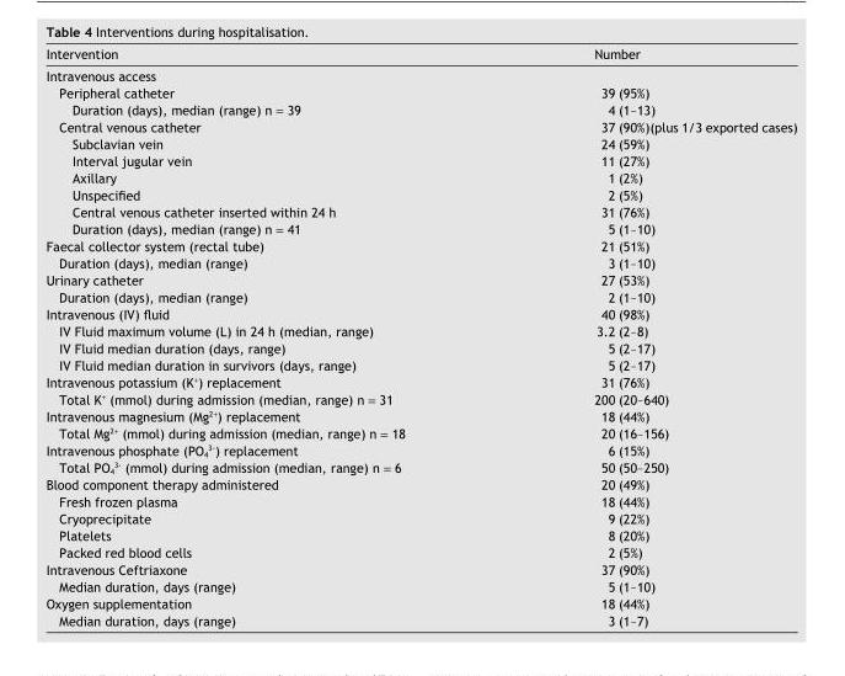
<table><thead><tr><td>Intervention</td><td>Number</td></tr></thead><tbody><tr><td colspan="2">Intravenous access</td></tr><tr><td>Peripheral catheter</td><td>39 (95%)</td></tr><tr><td>Duration (days), median (range) n = 39</td><td>4 (1–13)</td></tr><tr><td>Central venous catheter</td><td>37 (90%)(plus 1/3 exported cases)</td></tr><tr><td>Subclavian vein</td><td>24 (59%)</td></tr><tr><td>Interval jugular vein</td><td>11 (27%)</td></tr><tr><td>Axillary</td><td>1 (2%)</td></tr><tr><td>Unspecified</td><td>2 (5%)</td></tr><tr><td>Central venous catheter inserted within 24 h</td><td>31 (76%)</td></tr><tr><td>Duration (days), median (range) n = 41</td><td>5 (1–10)</td></tr><tr><td>Faecal collector system (rectal tube)</td><td>21 (51%)</td></tr><tr><td>Duration (days), median (range)</td><td>3 (1–10)</td></tr><tr><td>Urinary catheter</td><td>27 (53%)</td></tr><tr><td>Duration (days), median (range)</td><td>2 (1–10)</td></tr><tr><td>Intravenous (IV) fluid</td><td>40 (98%)</td></tr><tr><td>IV Fluid maximum volume (L) in 24 h (median, range)</td><td>3.2 (2–8)</td></tr><tr><td>IV Fluid median duration (days, range)</td><td>5 (2–17)</td></tr><tr><td>IV Fluid median duration in survivors (days, range)</td><td>5 (2–17)</td></tr><tr><td>Intravenous potassium (K<sup>+</sup>) replacement</td><td>31 (76%)</td></tr><tr><td>Total K<sup>+</sup> (mmol) during admission (median, range) n = 31</td><td>200 (20–640)</td></tr><tr><td>Intravenous magnesium (Mg<sup>2+</sup>) replacement</td><td>18 (44%)</td></tr><tr><td>Total Mg<sup>2+</sup> (mmol) during admission (median, range) n = 18</td><td>20 (16–156)</td></tr><tr><td>Intravenous phosphate (PO<sub>4</sub> <sup>3-</sup>) replacement</td><td>6 (15%)</td></tr><tr><td>Total PO<sub>4</sub> <sup>3-</sup> (mmol) during admission (median, range) n = 6</td><td>50 (50–250)</td></tr><tr><td>Blood component therapy administered</td><td>20 (49%)</td></tr><tr><td>Fresh frozen plasma</td><td>18 (44%)</td></tr><tr><td>Cryoprecipitate</td><td>9 (22%)</td></tr><tr><td>Platelets</td><td>8 (20%)</td></tr><tr><td>Packed red blood cells</td><td>2 (5%)</td></tr><tr><td>Intravenous Ceftriaxone</td><td>37 (90%)</td></tr><tr><td>Median duration, days (range)</td><td>5 (1–10)</td></tr><tr><td>Oxygen supplementation</td><td>18 (44%)</td></tr><tr><td>Median duration, days (range)</td><td>3 (1–7)</td></tr></tbody></table>